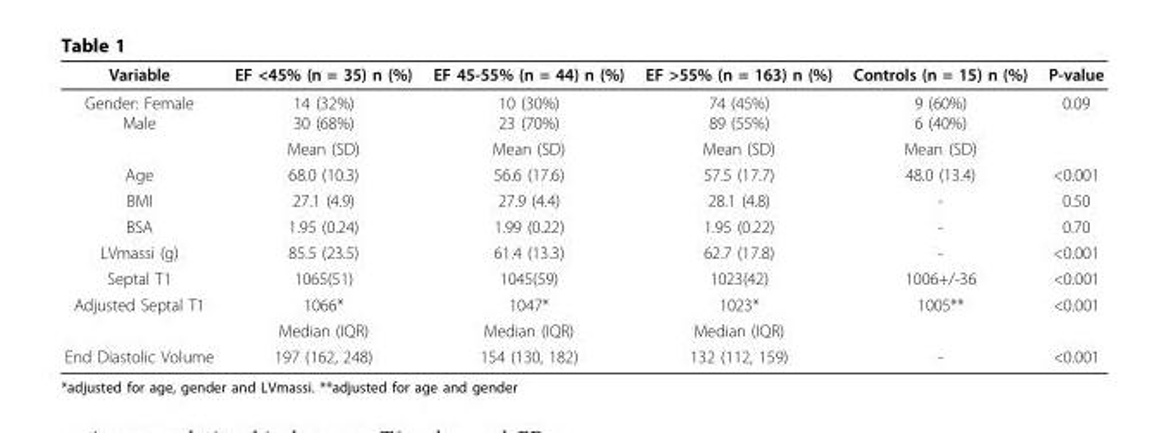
<table><thead><tr><td>Variable</td><td>EF &lt;45% (n = 35) n (%)</td><td>EF 45-55% (n = 44) n (%)</td><td>EF &gt;55% (n = 163) n (%)</td><td>Controls (n = 15) n (%)</td><td>P-value</td></tr></thead><tbody><tr><td rowspan="2">Gender: Female Male</td><td>14 (32%) 30 (68%)</td><td>10 (30%) 23 (70%)</td><td>74 (45%) 89 (55%)</td><td>9 (60%) 6 (40%)</td><td>0.09</td></tr><tr><td>Mean (SD)</td><td>Mean (SD)</td><td>Mean (SD)</td><td>Mean (SD)</td><td></td></tr><tr><td>Age</td><td>68.0 (10.3)</td><td>56.6 (17.6)</td><td>57.5 (17.7)</td><td>48.0 (13.4)</td><td>&lt;0.001</td></tr><tr><td>BMI</td><td>27.1 (4.9)</td><td>27.9 (4.4)</td><td>28.1 (4.8)</td><td>-</td><td>0.50</td></tr><tr><td>BSA</td><td>1.95 (0.24)</td><td>1.99 (0.22)</td><td>1.95 (0.22)</td><td>-</td><td>0.70</td></tr><tr><td>LVmassi (g)</td><td>85.5 (23.5)</td><td>61.4 (13.3)</td><td>62.7 (17.8)</td><td>-</td><td>&lt;0.001</td></tr><tr><td>Septal T1</td><td>1065(51)</td><td>1045(59)</td><td>1023(42)</td><td>1006+/-36</td><td>&lt;0.001</td></tr><tr><td rowspan="2">Adjusted Septal T1</td><td>1066*</td><td>1047*</td><td>1023*</td><td>1005**</td><td>&lt;0.001</td></tr><tr><td>Median (IQR)</td><td>Median (IQR)</td><td>Median (IQR)</td><td></td><td></td></tr><tr><td>End Diastolic Volume</td><td>197 (162, 248)</td><td>154 (130, 182)</td><td>132 (112, 159)</td><td>-</td><td>&lt;0.001</td></tr></tbody></table>